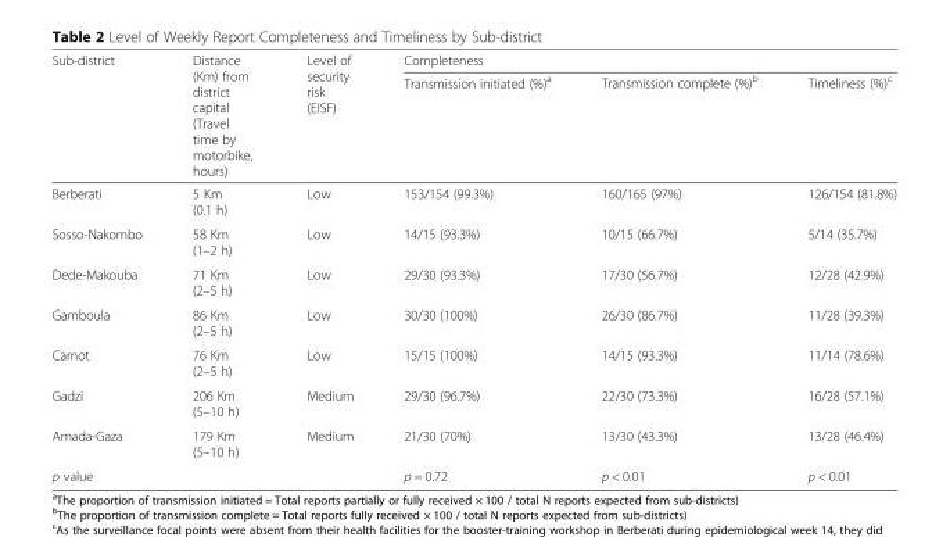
<table><thead><tr><td rowspan="2">Sub-district</td><td rowspan="2">Distance (Km) from district capital (Travel time by motorbike, hours)</td><td rowspan="2">Level of security risk (EISF)</td><td colspan="3">Completeness</td></tr><tr><td>Transmission initiated (%)<sup>a</sup></td><td>Transmission complete (%)<sup>b</sup></td><td>Timeliness (%)<sup>c</sup></td></tr></thead><tbody><tr><td>Berberati</td><td>5 Km (0.1 h)</td><td>Low</td><td>153/154 (99.3%)</td><td>160/165 (97%)</td><td>126/154 (81.8%)</td></tr><tr><td>Sosso-Nakombo</td><td>58 Km (1–2 h)</td><td>Low</td><td>14/15 (93.3%)</td><td>10/15 (66.7%)</td><td>5/14 (35.7%)</td></tr><tr><td>Dede-Makouba</td><td>71 Km (2–5 h)</td><td>Low</td><td>29/30 (93.3%)</td><td>17/30 (56.7%)</td><td>12/28 (42.9%)</td></tr><tr><td>Gamboula</td><td>86 Km (2–5 h)</td><td>Low</td><td>30/30 (100%)</td><td>26/30 (86.7%)</td><td>11/28 (39.3%)</td></tr><tr><td>Carnot</td><td>76 Km (2–5 h)</td><td>Low</td><td>15/15 (100%)</td><td>14/15 (93.3%)</td><td>11/14 (78.6%)</td></tr><tr><td>Gadzi</td><td>206 Km (5–10 h)</td><td>Medium</td><td>29/30 (96.7%)</td><td>22/30 (73.3%)</td><td>16/28 (57.1%)</td></tr><tr><td>Amada-Gaza</td><td>179 Km (5–10 h)</td><td>Medium</td><td>21/30 (70%)</td><td>13/30 (43.3%)</td><td>13/28 (46.4%)</td></tr><tr><td>p value</td><td></td><td></td><td>p = 0.72</td><td>p &lt; 0.01</td><td>p &lt; 0.01</td></tr></tbody></table>